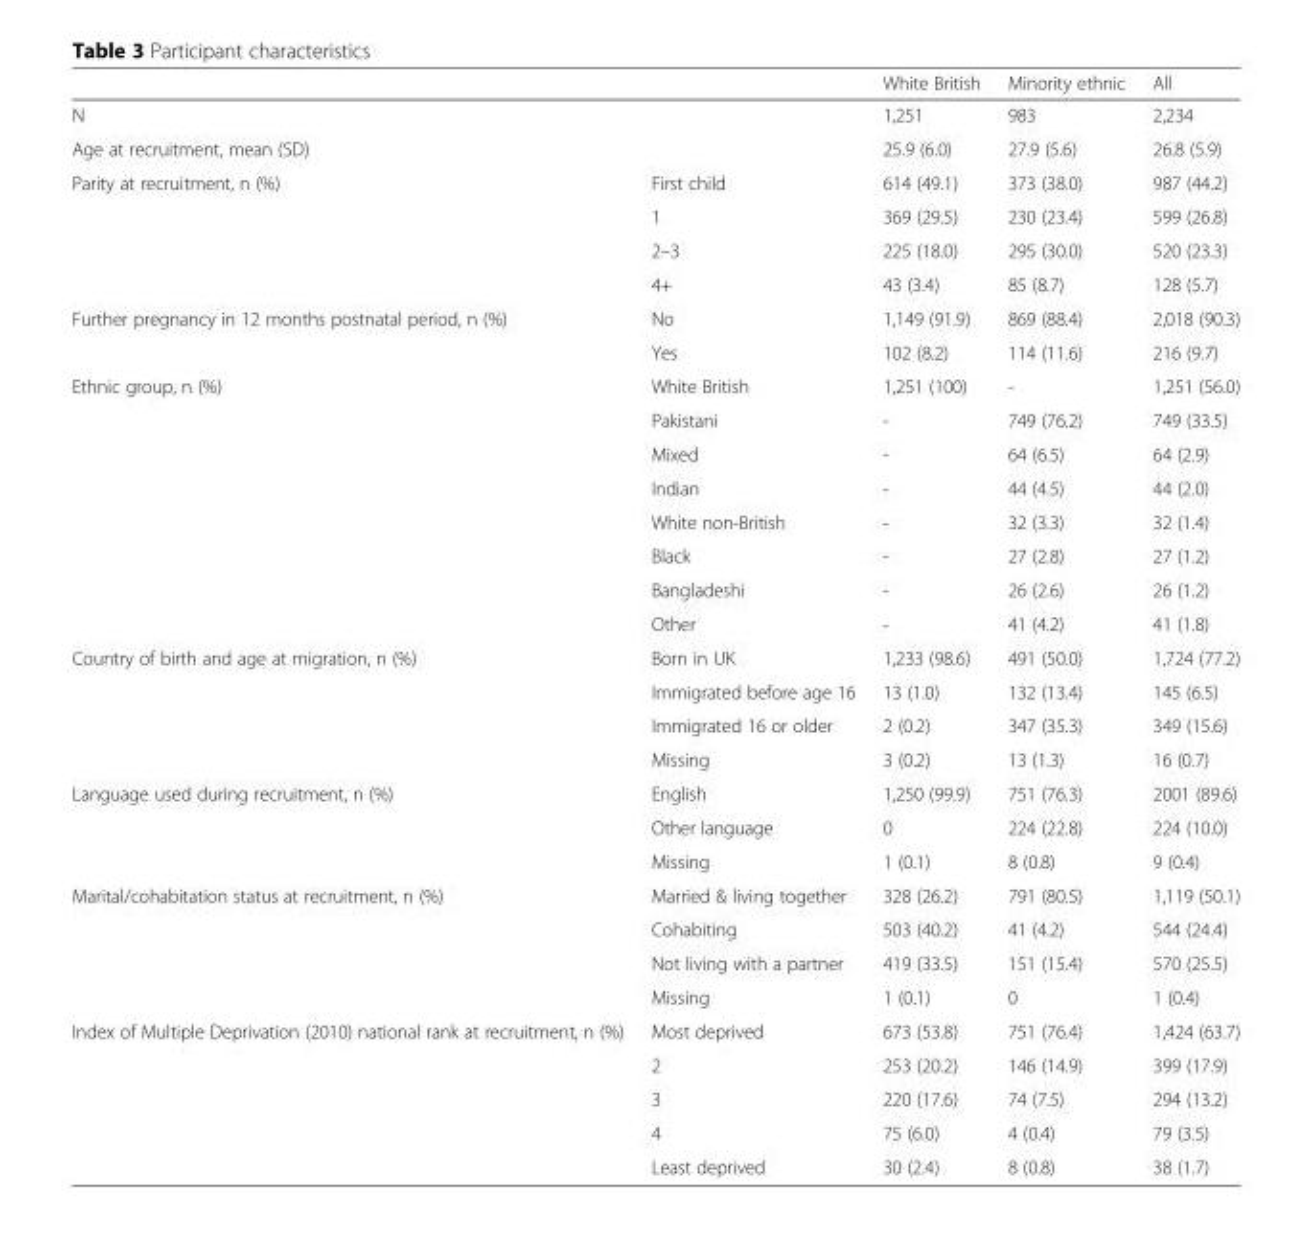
<table><thead><tr><td></td><td></td><td>White British</td><td>Minority ethnic</td><td>All</td></tr></thead><tbody><tr><td>N</td><td></td><td>1,251</td><td>983</td><td>2,234</td></tr><tr><td>Age at recruitment, mean (SD)</td><td></td><td>25.9 (6.0)</td><td>27.9 (5.6)</td><td>26.8 (5.9)</td></tr><tr><td rowspan="4">Parity at recruitment, n (%)</td><td>First child</td><td>614 (49.1)</td><td>373 (38.0)</td><td>987 (44.2)</td></tr><tr><td>1</td><td>369 (29.5)</td><td>230 (23.4)</td><td>599 (26.8)</td></tr><tr><td>2–3</td><td>225 (18.0)</td><td>295 (30.0)</td><td>520 (23.3)</td></tr><tr><td>4+</td><td>43 (3.4)</td><td>85 (8.7)</td><td>128 (5.7)</td></tr><tr><td rowspan="2">Further pregnancy in 12 months postnatal period, n (%)</td><td>No</td><td>1,149 (91.9)</td><td>869 (88.4)</td><td>2,018 (90.3)</td></tr><tr><td>Yes</td><td>102 (8.2)</td><td>114 (11.6)</td><td>216 (9.7)</td></tr><tr><td rowspan="8">Ethnic group, n (%)</td><td>White British</td><td>1,251 (100)</td><td>-</td><td>1,251 (56.0)</td></tr><tr><td>Pakistani</td><td>-</td><td>749 (76.2)</td><td>749 (33.5)</td></tr><tr><td>Mixed</td><td>-</td><td>64 (6.5)</td><td>64 (2.9)</td></tr><tr><td>Indian</td><td>-</td><td>44 (4.5)</td><td>44 (2.0)</td></tr><tr><td>White non-British</td><td>-</td><td>32 (3.3)</td><td>32 (1.4)</td></tr><tr><td>Black</td><td>-</td><td>27 (2.8)</td><td>27 (1.2)</td></tr><tr><td>Bangladeshi</td><td>-</td><td>26 (2.6)</td><td>26 (1.2)</td></tr><tr><td>Other</td><td>-</td><td>41 (4.2)</td><td>41 (1.8)</td></tr><tr><td rowspan="4">Country of birth and age at migration, n (%)</td><td>Born in UK</td><td>1,233 (98.6)</td><td>491 (50.0)</td><td>1,724 (77.2)</td></tr><tr><td>Immigrated before age 16</td><td>13 (1.0)</td><td>132 (13.4)</td><td>145 (6.5)</td></tr><tr><td>Immigrated 16 or older</td><td>2 (0.2)</td><td>347 (35.3)</td><td>349 (15.6)</td></tr><tr><td>Missing</td><td>3 (0.2)</td><td>13 (1.3)</td><td>16 (0.7)</td></tr><tr><td rowspan="3">Language used during recruitment, n (%)</td><td>English</td><td>1,250 (99.9)</td><td>751 (76.3)</td><td>2001 (89.6)</td></tr><tr><td>Other language</td><td>0</td><td>224 (22.8)</td><td>224 (10.0)</td></tr><tr><td>Missing</td><td>1 (0.1)</td><td>8 (0.8)</td><td>9 (0.4)</td></tr><tr><td rowspan="4">Marital/cohabitation status at recruitment, n (%)</td><td>Married &amp; living together</td><td>328 (26.2)</td><td>791 (80.5)</td><td>1,119 (50.1)</td></tr><tr><td>Cohabiting</td><td>503 (40.2)</td><td>41 (4.2)</td><td>544 (24.4)</td></tr><tr><td>Not living with a partner</td><td>419 (33.5)</td><td>151 (15.4)</td><td>570 (25.5)</td></tr><tr><td>Missing</td><td>1 (0.1)</td><td>0</td><td>1 (0.4)</td></tr><tr><td rowspan="5">Index of Multiple Deprivation (2010) national rank at recruitment, n (%)</td><td>Most deprived</td><td>673 (53.8)</td><td>751 (76.4)</td><td>1,424 (63.7)</td></tr><tr><td>2</td><td>253 (20.2)</td><td>146 (14.9)</td><td>399 (17.9)</td></tr><tr><td>3</td><td>220 (17.6)</td><td>74 (7.5)</td><td>294 (13.2)</td></tr><tr><td>4</td><td>75 (6.0)</td><td>4 (0.4)</td><td>79 (3.5)</td></tr><tr><td>Least deprived</td><td>30 (2.4)</td><td>8 (0.8)</td><td>38 (1.7)</td></tr></tbody></table>